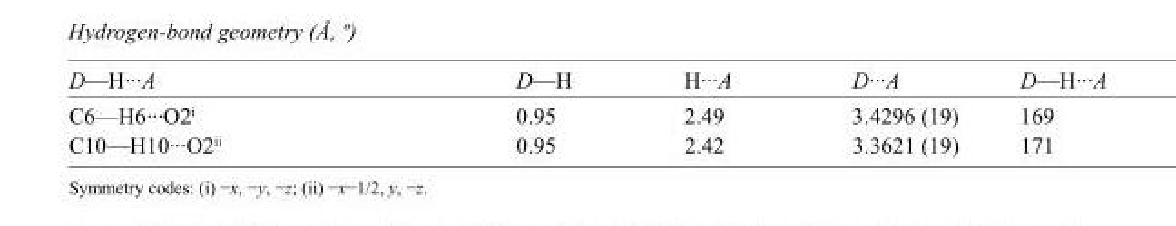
<table><tbody><tr><td>D—H···A</td><td>D—H</td><td>H···A</td><td>D···A</td><td>D—H···A</td></tr><tr><td>C6—H6···O2<sup>i</sup></td><td>0.95</td><td>2.49</td><td>3.4296 (19)</td><td>169</td></tr><tr><td>C10—H10···O2<sup>ii</sup></td><td>0.95</td><td>2.42</td><td>3.3621 (19)</td><td>171</td></tr></tbody></table>